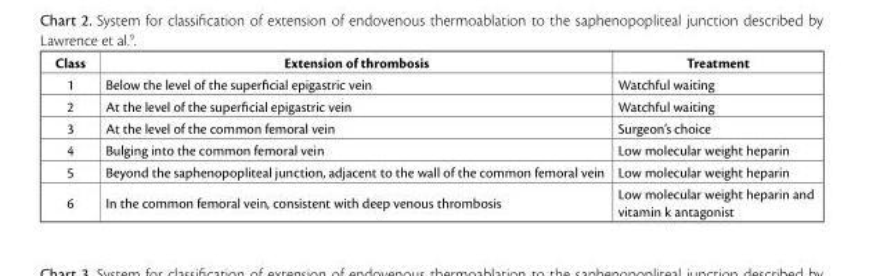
<table><thead><tr><td>Class</td><td>Extension of thrombosis</td><td>Treatment</td></tr></thead><tbody><tr><td>1</td><td>Below the level of the superficial epigastric vein</td><td>Watchful waiting</td></tr><tr><td>2</td><td>At the level of the superficial epigastric vein</td><td>Watchful waiting</td></tr><tr><td>3</td><td>At the level of the common femoral vein</td><td>Surgeon’s choice</td></tr><tr><td>4</td><td>Bulging into the common femoral vein</td><td>Low molecular weight heparin</td></tr><tr><td>5</td><td>Beyond the saphenopopliteal junction, adjacent to the wall of the common femoral vein</td><td>Low molecular weight heparin</td></tr><tr><td>6</td><td>In the common femoral vein, consistent with deep venous thrombosis</td><td>Low molecular weight heparin and vitamin k antagonist</td></tr></tbody></table>